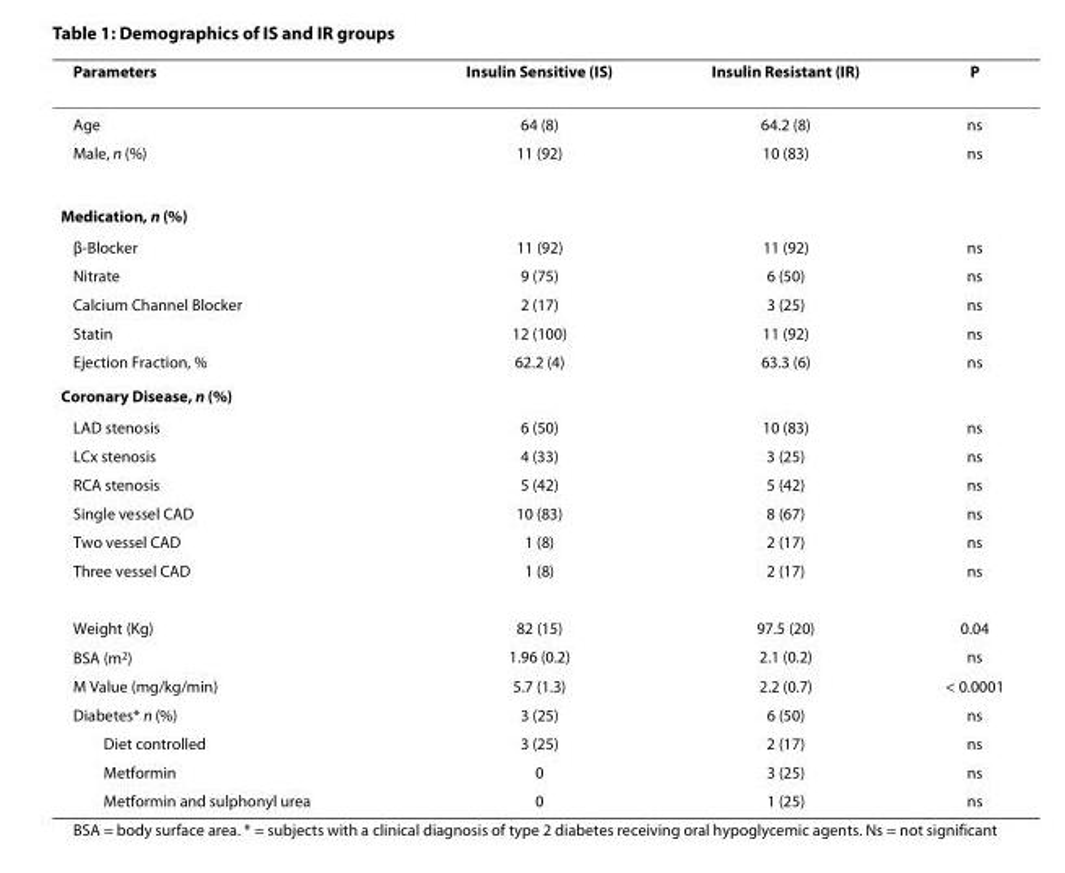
<table><thead><tr><td>Parameters</td><td>Insulin Sensitive (IS)</td><td>Insulin Resistant (IR)</td><td>P</td></tr></thead><tbody><tr><td>Age</td><td>64 (8)</td><td>64.2 (8)</td><td>ns</td></tr><tr><td>Male, n (%)</td><td>11 (92)</td><td>10 (83)</td><td>ns</td></tr><tr><td colspan="4">Medication, n (%)</td></tr><tr><td>β-Blocker</td><td>11 (92)</td><td>11 (92)</td><td>ns</td></tr><tr><td>Nitrate</td><td>9 (75)</td><td>6 (50)</td><td>ns</td></tr><tr><td>Calcium Channel Blocker</td><td>2 (17)</td><td>3 (25)</td><td>ns</td></tr><tr><td>Statin</td><td>12 (100)</td><td>11 (92)</td><td>ns</td></tr><tr><td>Ejection Fraction, %</td><td>62.2 (4)</td><td>63.3 (6)</td><td>ns</td></tr><tr><td colspan="4">Coronary Disease, n (%)</td></tr><tr><td>LAD stenosis</td><td>6 (50)</td><td>10 (83)</td><td>ns</td></tr><tr><td>LCx stenosis</td><td>4 (33)</td><td>3 (25)</td><td>ns</td></tr><tr><td>RCA stenosis</td><td>5 (42)</td><td>5 (42)</td><td>ns</td></tr><tr><td>Single vessel CAD</td><td>10 (83)</td><td>8 (67)</td><td>ns</td></tr><tr><td>Two vessel CAD</td><td>1 (8)</td><td>2 (17)</td><td>ns</td></tr><tr><td>Three vessel CAD</td><td>1 (8)</td><td>2 (17)</td><td>ns</td></tr><tr><td>Weight (Kg)</td><td>82 (15)</td><td>97.5 (20)</td><td>0.04</td></tr><tr><td>BSA (m<sup>2</sup>)</td><td>1.96 (0.2)</td><td>2.1 (0.2)</td><td>ns</td></tr><tr><td>M Value (mg/kg/min)</td><td>5.7 (1.3)</td><td>2.2 (0.7)</td><td>&lt; 0.0001</td></tr><tr><td>Diabetes* n (%)</td><td>3 (25)</td><td>6 (50)</td><td>ns</td></tr><tr><td>Diet controlled</td><td>3 (25)</td><td>2 (17)</td><td>ns</td></tr><tr><td>Metformin</td><td>0</td><td>3 (25)</td><td>ns</td></tr><tr><td>Metformin and sulphonyl urea</td><td>0</td><td>1 (25)</td><td>ns</td></tr></tbody></table>